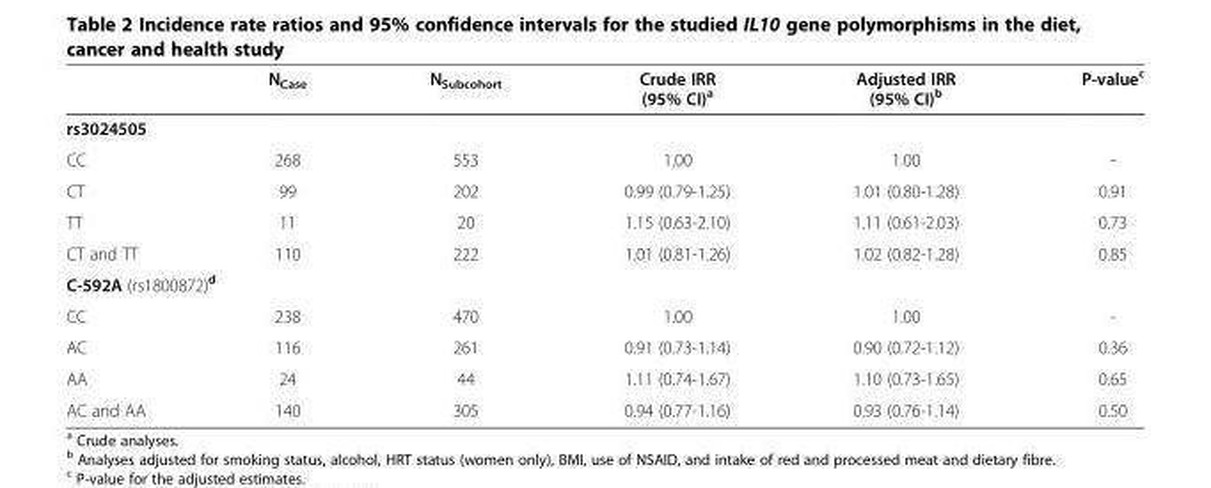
<table><thead><tr><td></td><td>N<sub>Case</sub></td><td>N<sub>Subcohort</sub></td><td>Crude IRR (95% CI)<sup>a</sup></td><td>Adjusted IRR (95% CI)<sup>b</sup></td><td>P-value<sup>c</sup></td></tr></thead><tbody><tr><td colspan="6">rs3024505</td></tr><tr><td>CC</td><td>268</td><td>553</td><td>1.00</td><td>1.00</td><td>-</td></tr><tr><td>CT</td><td>99</td><td>202</td><td>0.99 (0.79-1.25)</td><td>1.01 (0.80-1.28)</td><td>0.91</td></tr><tr><td>TT</td><td>11</td><td>20</td><td>1.15 (0.63-2.10)</td><td>1.11 (0.61-2.03)</td><td>0.73</td></tr><tr><td>CT and TT</td><td>110</td><td>222</td><td>1.01 (0.81-1.26)</td><td>1.02 (0.82-1.28)</td><td>0.85</td></tr><tr><td colspan="6">C-592A (rs1800872)<sup>d</sup></td></tr><tr><td>CC</td><td>238</td><td>470</td><td>1.00</td><td>1.00</td><td>-</td></tr><tr><td>AC</td><td>116</td><td>261</td><td>0.91 (0.73-1.14)</td><td>0.90 (0.72-1.12)</td><td>0.36</td></tr><tr><td>AA</td><td>24</td><td>44</td><td>1.11 (0.74-1.67)</td><td>1.10 (0.73-1.65)</td><td>0.65</td></tr><tr><td>AC and AA</td><td>140</td><td>305</td><td>0.94 (0.77-1.16)</td><td>0.93 (0.76-1.14)</td><td>0.50</td></tr></tbody></table>